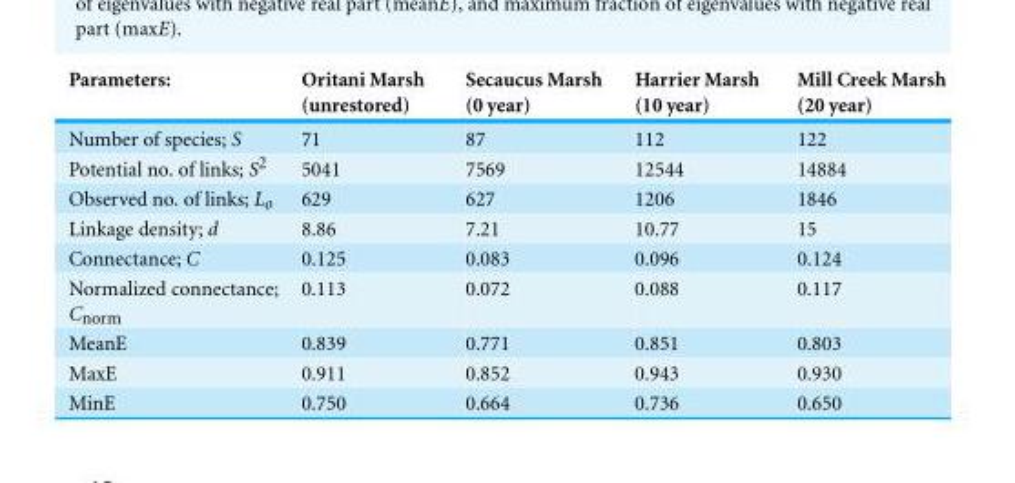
<table><thead><tr><td>Parameters:</td><td>Oritani Marsh (unrestored)</td><td>Secaucus Marsh (0 year)</td><td>Harrier Marsh (10 year)</td><td>Mill Creek Marsh (20 year)</td></tr></thead><tbody><tr><td>Number of species; S</td><td>71</td><td>87</td><td>112</td><td>122</td></tr><tr><td>Potential no. of links; S<sup>2</sup></td><td>5041</td><td>7569</td><td>12544</td><td>14884</td></tr><tr><td>Observed no. of links; L<sub>o</sub></td><td>629</td><td>627</td><td>1206</td><td>1846</td></tr><tr><td>Linkage density; d</td><td>8.86</td><td>7.21</td><td>10.77</td><td>15</td></tr><tr><td>Connectance; C</td><td>0.125</td><td>0.083</td><td>0.096</td><td>0.124</td></tr><tr><td>Normalized connectance; C<sub>norm</sub></td><td>0.113</td><td>0.072</td><td>0.088</td><td>0.117</td></tr><tr><td>MeanE</td><td>0.839</td><td>0.771</td><td>0.851</td><td>0.803</td></tr><tr><td>MaxE</td><td>0.911</td><td>0.852</td><td>0.943</td><td>0.930</td></tr><tr><td>MinE</td><td>0.750</td><td>0.664</td><td>0.736</td><td>0.650</td></tr></tbody></table>